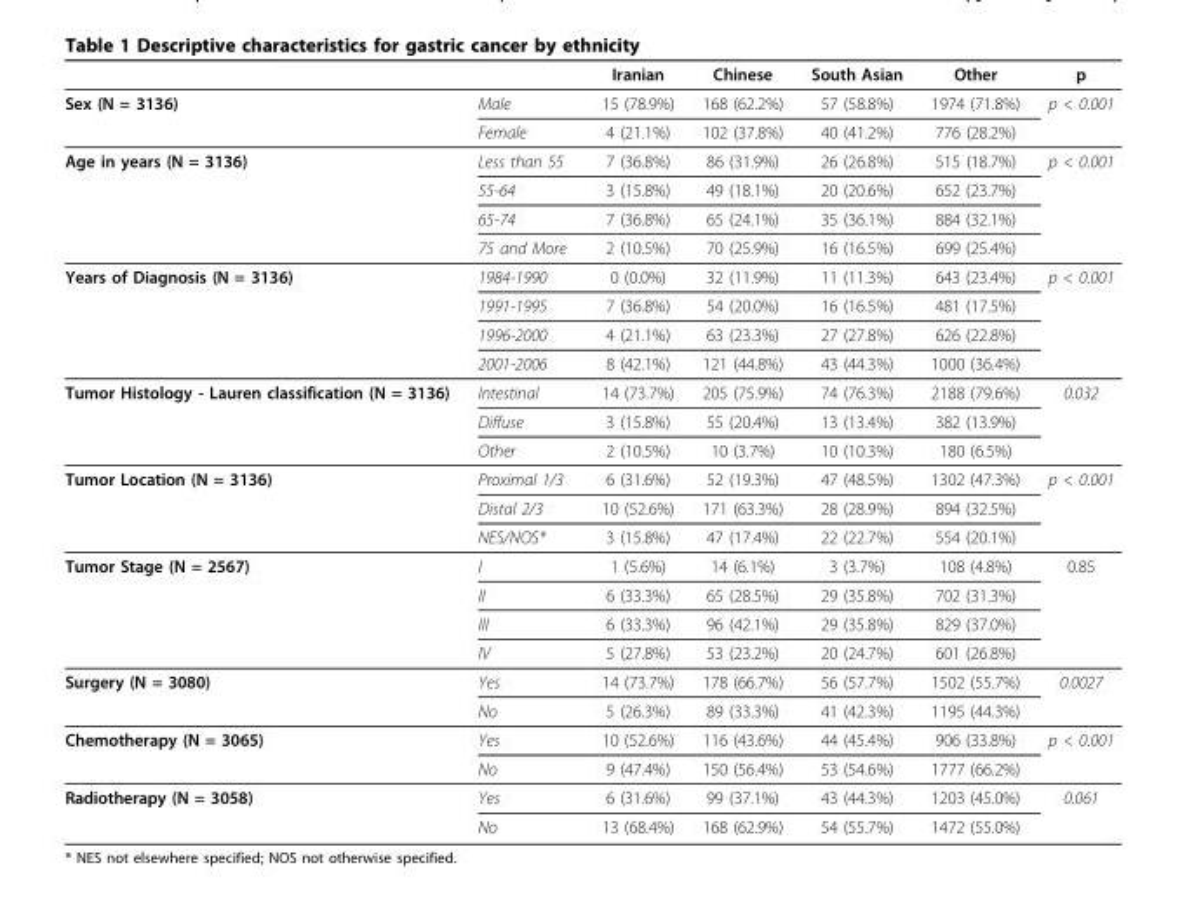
<table><thead><tr><td></td><td></td><td>Iranian</td><td>Chinese</td><td>South Asian</td><td>Other</td><td>p</td></tr></thead><tbody><tr><td rowspan="2">Sex (N = 3136)</td><td>Male</td><td>15 (78.9%)</td><td>168 (62.2%)</td><td>57 (58.8%)</td><td>1974 (71.8%)</td><td>p &lt; 0.001</td></tr><tr><td>Female</td><td>4 (21.1%)</td><td>102 (37.8%)</td><td>40 (41.2%)</td><td>776 (28.2%)</td><td></td></tr><tr><td rowspan="4">Age in years (N = 3136)</td><td>Less than 55</td><td>7 (36.8%)</td><td>86 (31.9%)</td><td>26 (26.8%)</td><td>515 (18.7%)</td><td>p &lt; 0.001</td></tr><tr><td>55-64</td><td>3 (15.8%)</td><td>49 (18.1%)</td><td>20 (20.6%)</td><td>652 (23.7%)</td><td></td></tr><tr><td>65-74</td><td>7 (36.8%)</td><td>65 (24.1%)</td><td>35 (36.1%)</td><td>884 (32.1%)</td><td></td></tr><tr><td>75 and More</td><td>2 (10.5%)</td><td>70 (25.9%)</td><td>16 (16.5%)</td><td>699 (25.4%)</td><td></td></tr><tr><td rowspan="4">Years of Diagnosis (N = 3136)</td><td>1984-1990</td><td>0 (0.0%)</td><td>32 (11.9%)</td><td>11 (11.3%)</td><td>643 (23.4%)</td><td>p &lt; 0.001</td></tr><tr><td>1991-1995</td><td>7 (36.8%)</td><td>54 (20.0%)</td><td>16 (16.5%)</td><td>481 (17.5%)</td><td></td></tr><tr><td>1996-2000</td><td>4 (21.1%)</td><td>63 (23.3%)</td><td>27 (27.8%)</td><td>626 (22.8%)</td><td></td></tr><tr><td>2001-2006</td><td>8 (42.1%)</td><td>121 (44.8%)</td><td>43 (44.3%)</td><td>1000 (36.4%)</td><td></td></tr><tr><td rowspan="3">Tumor Histology - Lauren classification (N = 3136)</td><td>Intestinal</td><td>14 (73.7%)</td><td>205 (75.9%)</td><td>74 (76.3%)</td><td>2188 (79.6%)</td><td>0.032</td></tr><tr><td>Diffuse</td><td>3 (15.8%)</td><td>55 (20.4%)</td><td>13 (13.4%)</td><td>382 (13.9%)</td><td></td></tr><tr><td>Other</td><td>2 (10.5%)</td><td>10 (3.7%)</td><td>10 (10.3%)</td><td>180 (6.5%)</td><td></td></tr><tr><td rowspan="3">Tumor Location (N = 3136)</td><td>Proximal 1/3</td><td>6 (31.6%)</td><td>52 (19.3%)</td><td>47 (48.5%)</td><td>1302 (47.3%)</td><td>p &lt; 0.001</td></tr><tr><td>Distal 2/3</td><td>10 (52.6%)</td><td>171 (63.3%)</td><td>28 (28.9%)</td><td>894 (32.5%)</td><td></td></tr><tr><td>NES/NOS*</td><td>3 (15.8%)</td><td>47 (17.4%)</td><td>22 (22.7%)</td><td>554 (20.1%)</td><td></td></tr><tr><td rowspan="4">Tumor Stage (N = 2567)</td><td>I</td><td>1 (5.6%)</td><td>14 (6.1%)</td><td>3 (3.7%)</td><td>108 (4.8%)</td><td>0.85</td></tr><tr><td>II</td><td>6 (33.3%)</td><td>65 (28.5%)</td><td>29 (35.8%)</td><td>702 (31.3%)</td><td></td></tr><tr><td>III</td><td>6 (33.3%)</td><td>96 (42.1%)</td><td>29 (35.8%)</td><td>829 (37.0%)</td><td></td></tr><tr><td>IV</td><td>5 (27.8%)</td><td>53 (23.2%)</td><td>20 (24.7%)</td><td>601 (26.8%)</td><td></td></tr><tr><td rowspan="2">Surgery (N = 3080)</td><td>Yes</td><td>14 (73.7%)</td><td>178 (66.7%)</td><td>56 (57.7%)</td><td>1502 (55.7%)</td><td>0.0027</td></tr><tr><td>No</td><td>5 (26.3%)</td><td>89 (33.3%)</td><td>41 (42.3%)</td><td>1195 (44.3%)</td><td></td></tr><tr><td rowspan="2">Chemotherapy (N = 3065)</td><td>Yes</td><td>10 (52.6%)</td><td>116 (43.6%)</td><td>44 (45.4%)</td><td>906 (33.8%)</td><td>p &lt; 0.001</td></tr><tr><td>No</td><td>9 (47.4%)</td><td>150 (56.4%)</td><td>53 (54.6%)</td><td>1777 (66.2%)</td><td></td></tr><tr><td rowspan="2">Radiotherapy (N = 3058)</td><td>Yes</td><td>6 (31.6%)</td><td>99 (37.1%)</td><td>43 (44.3%)</td><td>1203 (45.0%)</td><td>0.061</td></tr><tr><td>No</td><td>13 (68.4%)</td><td>168 (62.9%)</td><td>54 (55.7%)</td><td>1472 (55.0%)</td><td></td></tr></tbody></table>